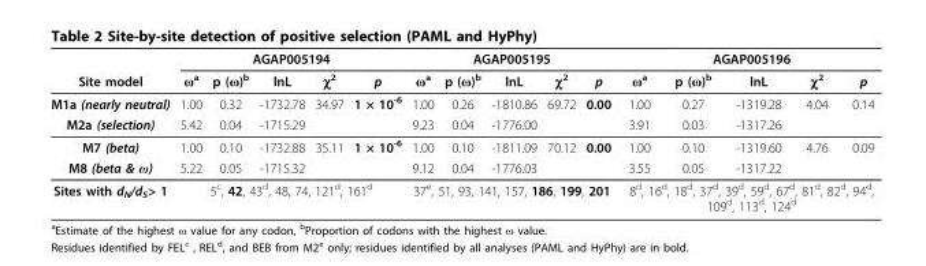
<table><thead><tr><td rowspan="2">Site model</td><td colspan="5">AGAP005194</td><td colspan="5">AGAP005195</td><td colspan="5">AGAP005196</td></tr><tr><td>ω<sup>a</sup></td><td>p (ω)<sup>b</sup></td><td>lnL</td><td>χ<sup>2</sup></td><td>p</td><td>ω<sup>a</sup></td><td>p (ω)<sup>b</sup></td><td>lnL</td><td>χ<sup>2</sup></td><td>p</td><td>ω<sup>a</sup></td><td>p (ω)<sup>b</sup></td><td>lnL</td><td>χ<sup>2</sup></td><td>p</td></tr></thead><tbody><tr><td>M1a (nearly neutral)</td><td>1.00</td><td>0.32</td><td>-1732.78</td><td>34.97</td><td>1 × 10<sup>-6</sup></td><td>1.00</td><td>0.26</td><td>-1810.86</td><td>69.72</td><td>0.00</td><td>1.00</td><td>0.27</td><td>-1319.28</td><td>4.04</td><td>0.14</td></tr><tr><td>M2a (selection)</td><td>5.42</td><td>0.04</td><td>-1715.29</td><td></td><td></td><td>9.23</td><td>0.04</td><td>-1776.00</td><td></td><td></td><td>3.91</td><td>0.03</td><td>-1317.26</td><td></td><td></td></tr><tr><td>M7 (beta)</td><td>1.00</td><td>0.10</td><td>-1732.88</td><td>35.11</td><td>1 × 10<sup>-6</sup></td><td>1.00</td><td>0.10</td><td>-1811.09</td><td>70.12</td><td>0.00</td><td>1.00</td><td>0.10</td><td>-1319.60</td><td>4.76</td><td>0.09</td></tr><tr><td>M8 (beta &amp; ω)</td><td>5.22</td><td>0.05</td><td>-1715.32</td><td></td><td></td><td>9.12</td><td>0.04</td><td>-1776.03</td><td></td><td></td><td>3.55</td><td>0.05</td><td>-1317.22</td><td></td><td></td></tr><tr><td>Sites with d<sub>N</sub>/d<sub>S</sub>&gt; 1</td><td colspan="5">5<sup>c</sup>, 42, 43<sup>d</sup>, 48, 74, 121<sup>d</sup>, 161<sup>d</sup></td><td colspan="5">37<sup>e</sup>, 51, 93, 141, 157, 186, 199, 201</td><td colspan="5">8<sup>d</sup>, 16<sup>d</sup>, 18<sup>d</sup>, 37<sup>d</sup>, 39<sup>d</sup>, 59<sup>d</sup>, 67<sup>d</sup>, 81<sup>d</sup>, 82<sup>d</sup>, 94<sup>d</sup>, 109<sup>d</sup>, 113<sup>d</sup>, 124<sup>d</sup></td></tr></tbody></table>